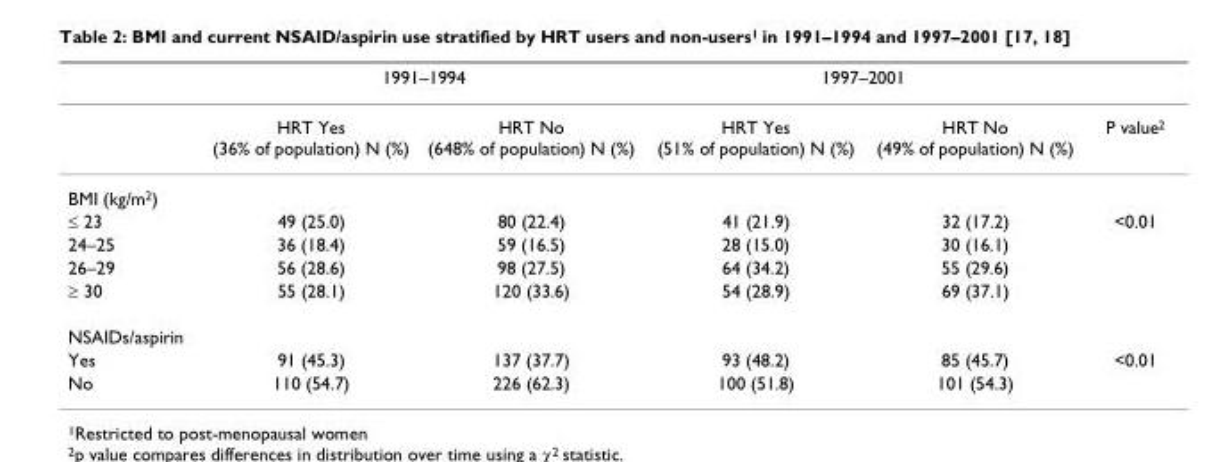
<table><thead><tr><td rowspan="2"></td><td colspan="2">1991–1994</td><td colspan="2">1997–2001</td><td rowspan="2">P value<sup>2</sup></td></tr><tr><td>HRT Yes (36% of population) N (%)</td><td>HRT No (648% of population) N (%)</td><td>HRT Yes (51% of population) N (%)</td><td>HRT No (49% of population) N (%)</td></tr></thead><tbody><tr><td colspan="6">BMI (kg/m<sup>2</sup>)</td></tr><tr><td>≤ 23</td><td>49 (25.0)</td><td>80 (22.4)</td><td>41 (21.9)</td><td>32 (17.2)</td><td>&lt;0.01</td></tr><tr><td>24–25</td><td>36 (18.4)</td><td>59 (16.5)</td><td>28 (15.0)</td><td>30 (16.1)</td><td></td></tr><tr><td>26–29</td><td>56 (28.6)</td><td>98 (27.5)</td><td>64 (34.2)</td><td>55 (29.6)</td><td></td></tr><tr><td>≥ 30</td><td>55 (28.1)</td><td>120 (33.6)</td><td>54 (28.9)</td><td>69 (37.1)</td><td></td></tr><tr><td colspan="6">NSAIDs/aspirin</td></tr><tr><td>Yes</td><td>91 (45.3)</td><td>137 (37.7)</td><td>93 (48.2)</td><td>85 (45.7)</td><td>&lt;0.01</td></tr><tr><td>No</td><td>110 (54.7)</td><td>226 (62.3)</td><td>100 (51.8)</td><td>101 (54.3)</td><td></td></tr></tbody></table>